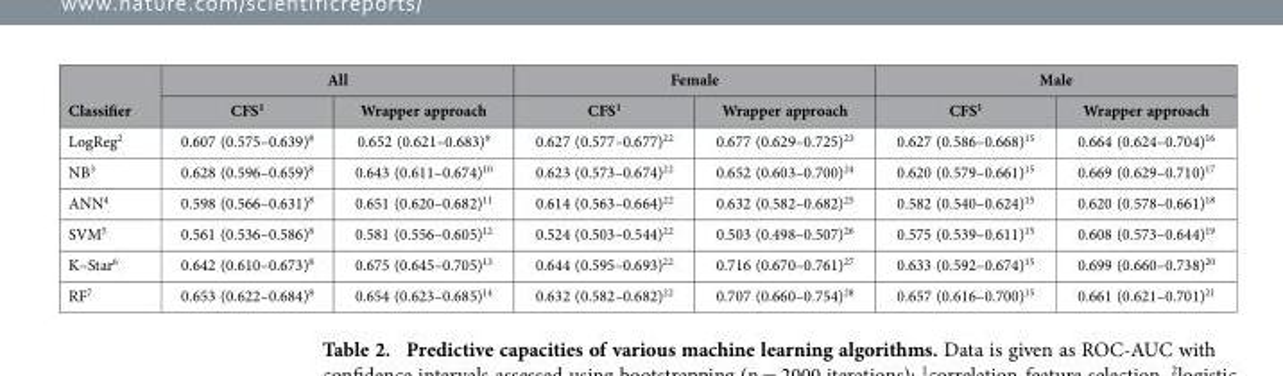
<table><thead><tr><td rowspan="2">Classifier</td><td colspan="2">All</td><td colspan="2">Female</td><td colspan="2">Male</td></tr><tr><td>CFS<sup>1</sup></td><td>Wrapper approach</td><td>CFS<sup>1</sup></td><td>Wrapper approach</td><td>CFS<sup>1</sup></td><td>Wrapper approach</td></tr></thead><tbody><tr><td>LogReg<sup>2</sup></td><td>0.607 (0.575–0.639)<sup>8</sup></td><td>0.652 (0.621–0.683)<sup>9</sup></td><td>0.627 (0.577–0.677)<sup>22</sup></td><td>0.677 (0.629–0.725)<sup>23</sup></td><td>0.627 (0.586–0.668)<sup>15</sup></td><td>0.664 (0.624–0.704)<sup>16</sup></td></tr><tr><td>NB<sup>3</sup></td><td>0.628 (0.596–0.659)<sup>8</sup></td><td>0.643 (0.611–0.674)<sup>10</sup></td><td>0.623 (0.573–0.674)<sup>22</sup></td><td>0.652 (0.603–0.700)<sup>24</sup></td><td>0.620 (0.579–0.661)<sup>15</sup></td><td>0.669 (0.629–0.710)<sup>17</sup></td></tr><tr><td>ANN<sup>4</sup></td><td>0.598 (0.566–0.631)<sup>8</sup></td><td>0.651 (0.620–0.682)<sup>11</sup></td><td>0.614 (0.563–0.664)<sup>22</sup></td><td>0.632 (0.582–0.682)<sup>25</sup></td><td>0.582 (0.540–0.624)<sup>15</sup></td><td>0.620 (0.578–0.661)<sup>18</sup></td></tr><tr><td>SVM<sup>5</sup></td><td>0.561 (0.536–0.586)<sup>8</sup></td><td>0.581 (0.556–0.605)<sup>12</sup></td><td>0.524 (0.503–0.544)<sup>22</sup></td><td>0.503 (0.498–0.507)<sup>26</sup></td><td>0.575 (0.539–0.611)<sup>15</sup></td><td>0.608 (0.573–0.644)<sup>19</sup></td></tr><tr><td>K–Star<sup>6</sup></td><td>0.642 (0.610–0.673)<sup>8</sup></td><td>0.675 (0.645–0.705)<sup>13</sup></td><td>0.644 (0.595–0.693)<sup>22</sup></td><td>0.716 (0.670–0.761)<sup>27</sup></td><td>0.633 (0.592–0.674)<sup>15</sup></td><td>0.699 (0.660–0.738)<sup>20</sup></td></tr><tr><td>RF<sup>7</sup></td><td>0.653 (0.622–0.684)<sup>8</sup></td><td>0.654 (0.623–0.685)<sup>14</sup></td><td>0.632 (0.582–0.682)<sup>22</sup></td><td>0.707 (0.660–0.754)<sup>28</sup></td><td>0.657 (0.616–0.700)<sup>15</sup></td><td>0.661 (0.621–0.701)<sup>21</sup></td></tr></tbody></table>